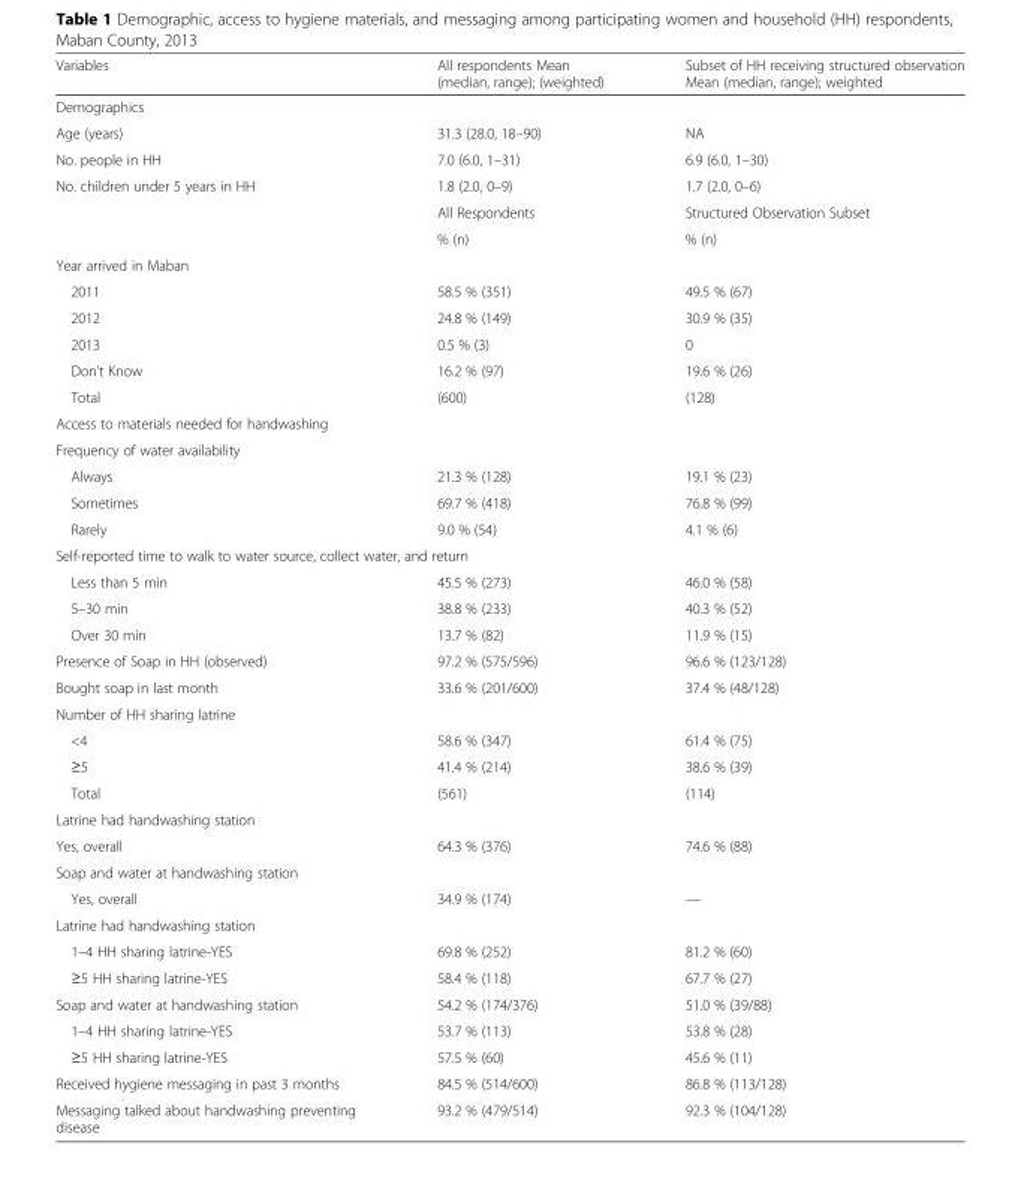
<table><thead><tr><td>Variables</td><td>All respondents Mean (median, range); (weighted)</td><td>Subset of HH receiving structured observation Mean (median, range); weighted</td></tr></thead><tbody><tr><td colspan="3">Demographics</td></tr><tr><td>Age (years)</td><td>31.3 (28.0, 18–90)</td><td>NA</td></tr><tr><td>No. people in HH</td><td>7.0 (6.0, 1–31)</td><td>6.9 (6.0, 1–30)</td></tr><tr><td rowspan="3">No. children under 5 years in HH</td><td>1.8 (2.0, 0–9)</td><td>1.7 (2.0, 0–6)</td></tr><tr><td>All Respondents</td><td>Structured Observation Subset</td></tr><tr><td>% (n)</td><td>% (n)</td></tr><tr><td colspan="3">Year arrived in Maban</td></tr><tr><td>2011</td><td>58.5 % (351)</td><td>49.5 % (67)</td></tr><tr><td>2012</td><td>24.8 % (149)</td><td>30.9 % (35)</td></tr><tr><td>2013</td><td>0.5 % (3)</td><td>0</td></tr><tr><td>Don’t Know</td><td>16.2 % (97)</td><td>19.6 % (26)</td></tr><tr><td>Total</td><td>(600)</td><td>(128)</td></tr><tr><td colspan="3">Access to materials needed for handwashing</td></tr><tr><td colspan="3">Frequency of water availability</td></tr><tr><td>Always</td><td>21.3 % (128)</td><td>19.1 % (23)</td></tr><tr><td>Sometimes</td><td>69.7 % (418)</td><td>76.8 % (99)</td></tr><tr><td>Rarely</td><td>9.0 % (54)</td><td>4.1 % (6)</td></tr><tr><td colspan="3">Self-reported time to walk to water source, collect water, and return</td></tr><tr><td>Less than 5 min</td><td>45.5 % (273)</td><td>46.0 % (58)</td></tr><tr><td>5–30 min</td><td>38.8 % (233)</td><td>40.3 % (52)</td></tr><tr><td>Over 30 min</td><td>13.7 % (82)</td><td>11.9 % (15)</td></tr><tr><td>Presence of Soap in HH (observed)</td><td>97.2 % (575/596)</td><td>96.6 % (123/128)</td></tr><tr><td>Bought soap in last month</td><td>33.6 % (201/600)</td><td>37.4 % (48/128)</td></tr><tr><td colspan="3">Number of HH sharing latrine</td></tr><tr><td>&lt;4</td><td>58.6 % (347)</td><td>61.4 % (75)</td></tr><tr><td>≥5</td><td>41.4 % (214)</td><td>38.6 % (39)</td></tr><tr><td>Total</td><td>(561)</td><td>(114)</td></tr><tr><td colspan="3">Latrine had handwashing station</td></tr><tr><td>Yes, overall</td><td>64.3 % (376)</td><td>74.6 % (88)</td></tr><tr><td colspan="3">Soap and water at handwashing station</td></tr><tr><td>Yes, overall</td><td>34.9 % (174)</td><td>—</td></tr><tr><td colspan="3">Latrine had handwashing station</td></tr><tr><td>1–4 HH sharing latrine-YES</td><td>69.8 % (252)</td><td>81.2 % (60)</td></tr><tr><td>≥5 HH sharing latrine-YES</td><td>58.4 % (118)</td><td>67.7 % (27)</td></tr><tr><td>Soap and water at handwashing station</td><td>54.2 % (174/376)</td><td>51.0 % (39/88)</td></tr><tr><td>1–4 HH sharing latrine-YES</td><td>53.7 % (113)</td><td>53.8 % (28)</td></tr><tr><td>≥5 HH sharing latrine-YES</td><td>57.5 % (60)</td><td>45.6 % (11)</td></tr><tr><td>Received hygiene messaging in past 3 months</td><td>84.5 % (514/600)</td><td>86.8 % (113/128)</td></tr><tr><td>Messaging talked about handwashing preventing disease</td><td>93.2 % (479/514)</td><td>92.3 % (104/128)</td></tr></tbody></table>